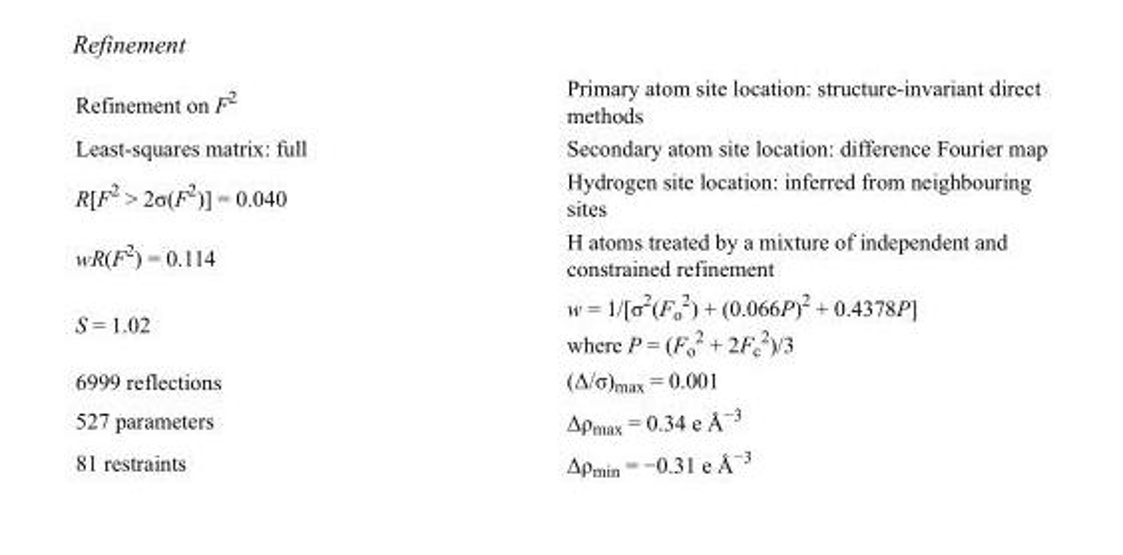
<table><tbody><tr><td>Refinement on F<sup>2</sup></td><td>Primary atom site location: structure-invariant direct methods</td></tr><tr><td>Least-squares matrix: full</td><td>Secondary atom site location: difference Fourier map</td></tr><tr><td>R[F<sup>2</sup> &gt; 2σ(F<sup>2</sup>)] = 0.040</td><td>Hydrogen site location: inferred from neighbouring sites</td></tr><tr><td>wR(F<sup>2</sup>) = 0.114</td><td>H atoms treated by a mixture of independent and constrained refinement</td></tr><tr><td>S = 1.02</td><td>w = 1/[σ<sup>2</sup>(F<sub>o</sub> <sup>2</sup>) + (0.066P)<sup>2</sup> + 0.4378P] where P = (F<sub>o</sub> <sup>2</sup> + 2F<sub>c</sub> <sup>2</sup>)/3</td></tr><tr><td>6999 reflections</td><td>(Δ/σ)<sub>max</sub> = 0.001</td></tr><tr><td>527 parameters</td><td>Δρ<sub>max</sub> = 0.34 e Å<sup>−3</sup></td></tr><tr><td>81 restraints</td><td>Δρ<sub>min</sub> = −0.31 e Å<sup>−3</sup></td></tr></tbody></table>